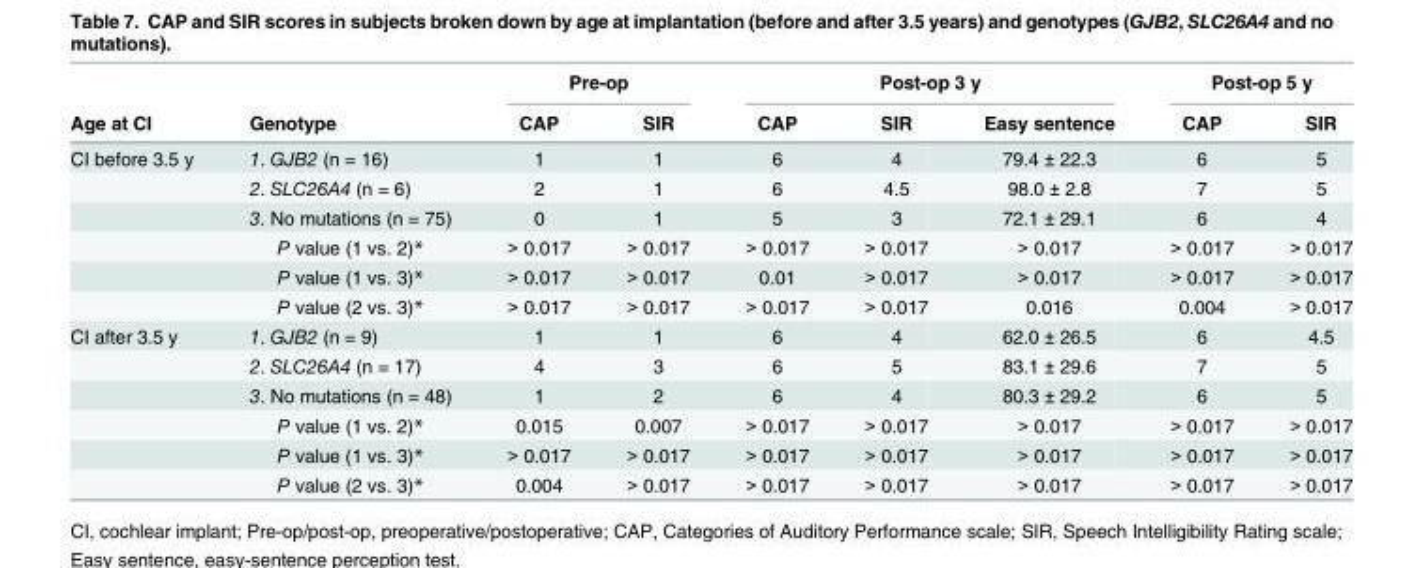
<table><thead><tr><td rowspan="2">Age at CI</td><td rowspan="2">Genotype</td><td colspan="2">Pre-op</td><td colspan="3">Post-op 3 y</td><td colspan="2">Post-op 5 y</td></tr><tr><td>CAP</td><td>SIR</td><td>CAP</td><td>SIR</td><td>Easy sentence</td><td>CAP</td><td>SIR</td></tr></thead><tbody><tr><td rowspan="6">CI before 3.5 y</td><td>1. GJB2 (n = 16)</td><td>1</td><td>1</td><td>6</td><td>4</td><td>79.4 ± 22.3</td><td>6</td><td>5</td></tr><tr><td>2. SLC26A4 (n = 6)</td><td>2</td><td>1</td><td>6</td><td>4.5</td><td>98.0 ± 2.8</td><td>7</td><td>5</td></tr><tr><td>3. No mutations (n = 75)</td><td>0</td><td>1</td><td>5</td><td>3</td><td>72.1 ± 29.1</td><td>6</td><td>4</td></tr><tr><td>P value (1 vs. 2)*</td><td>&gt; 0.017</td><td>&gt; 0.017</td><td>&gt; 0.017</td><td>&gt; 0.017</td><td>&gt; 0.017</td><td>&gt; 0.017</td><td>&gt; 0.017</td></tr><tr><td>P value (1 vs. 3)*</td><td>&gt; 0.017</td><td>&gt; 0.017</td><td>0.01</td><td>&gt; 0.017</td><td>&gt; 0.017</td><td>&gt; 0.017</td><td>&gt; 0.017</td></tr><tr><td>P value (2 vs. 3)*</td><td>&gt; 0.017</td><td>&gt; 0.017</td><td>&gt; 0.017</td><td>&gt; 0.017</td><td>0.016</td><td>0.004</td><td>&gt; 0.017</td></tr><tr><td rowspan="6">CI after 3.5 y</td><td>1. GJB2 (n = 9)</td><td>1</td><td>1</td><td>6</td><td>4</td><td>62.0 ± 26.5</td><td>6</td><td>4.5</td></tr><tr><td>2. SLC26A4 (n = 17)</td><td>4</td><td>3</td><td>6</td><td>5</td><td>83.1 ± 29.6</td><td>7</td><td>5</td></tr><tr><td>3. No mutations (n = 48)</td><td>1</td><td>2</td><td>6</td><td>4</td><td>80.3 ± 29.2</td><td>6</td><td>5</td></tr><tr><td>P value (1 vs. 2)*</td><td>0.015</td><td>0.007</td><td>&gt; 0.017</td><td>&gt; 0.017</td><td>&gt; 0.017</td><td>&gt; 0.017</td><td>&gt; 0.017</td></tr><tr><td>P value (1 vs. 3)*</td><td>&gt; 0.017</td><td>&gt; 0.017</td><td>&gt; 0.017</td><td>&gt; 0.017</td><td>&gt; 0.017</td><td>&gt; 0.017</td><td>&gt; 0.017</td></tr><tr><td>P value (2 vs. 3)*</td><td>0.004</td><td>&gt; 0.017</td><td>&gt; 0.017</td><td>&gt; 0.017</td><td>&gt; 0.017</td><td>&gt; 0.017</td><td>&gt; 0.017</td></tr></tbody></table>